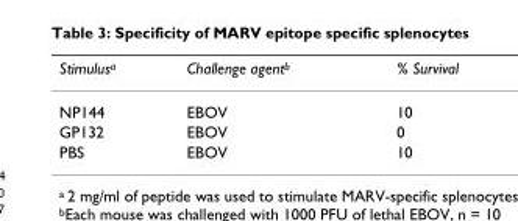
<table><thead><tr><td>Stimulus<sup>a</sup></td><td>Challenge agent<sup>b</sup></td><td>% Survival</td></tr></thead><tbody><tr><td>NP144</td><td>EBOV</td><td>10</td></tr><tr><td>GP132</td><td>EBOV</td><td>0</td></tr><tr><td>PBS</td><td>EBOV</td><td>10</td></tr></tbody></table>